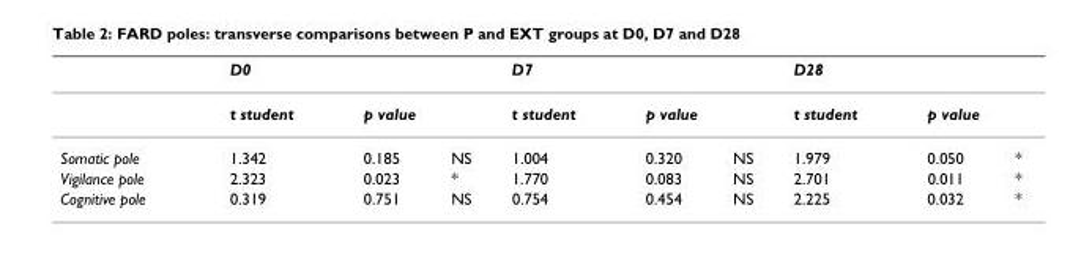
<table><thead><tr><td></td><td>D0</td><td></td><td></td><td>D7</td><td></td><td></td><td>D28</td><td></td><td></td></tr></thead><tbody><tr><td></td><td>t student</td><td colspan="2">p value</td><td>t student</td><td colspan="2">p value</td><td>t student</td><td colspan="2">p value</td></tr><tr><td>Somatic pole</td><td>1.342</td><td>0.185</td><td>NS</td><td>1.004</td><td>0.320</td><td>NS</td><td>1.979</td><td>0.050</td><td>*</td></tr><tr><td>Vigilance pole</td><td>2.323</td><td>0.023</td><td>*</td><td>1.770</td><td>0.083</td><td>NS</td><td>2.701</td><td>0.011</td><td>*</td></tr><tr><td>Cognitive pole</td><td>0.319</td><td>0.751</td><td>NS</td><td>0.754</td><td>0.454</td><td>NS</td><td>2.225</td><td>0.032</td><td>*</td></tr></tbody></table>